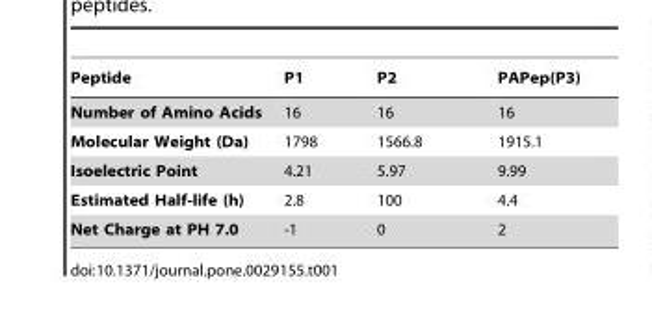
<table><thead><tr><td>Peptide</td><td>P1</td><td>P2</td><td>PAPep(P3)</td></tr></thead><tbody><tr><td>Number of Amino Acids</td><td>16</td><td>16</td><td>16</td></tr><tr><td>Molecular Weight (Da)</td><td>1798</td><td>1566.8</td><td>1915.1</td></tr><tr><td>Isoelectric Point</td><td>4.21</td><td>5.97</td><td>9.99</td></tr><tr><td>Estimated Half-life (h)</td><td>2.8</td><td>100</td><td>4.4</td></tr><tr><td>Net Charge at PH 7.0</td><td>-1</td><td>0</td><td>2</td></tr></tbody></table>